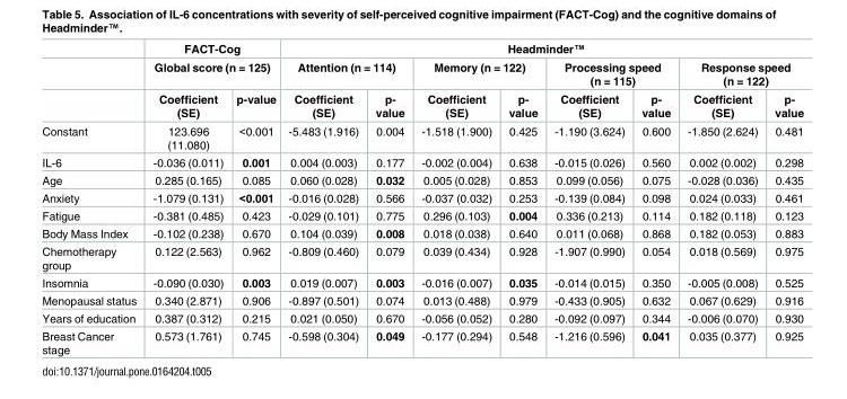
<table><thead><tr><td rowspan="3"></td><td rowspan="2" colspan="2">FACT-Cog Global score (n = 125)</td><td colspan="8">Headminder™</td></tr><tr><td colspan="2">Attention (n = 114)</td><td colspan="2">Memory (n = 122)</td><td colspan="2">Processing speed (n = 115)</td><td colspan="2">Response speed (n = 122)</td></tr><tr><td>Coefficient (SE)</td><td>p-value</td><td>Coefficient (SE)</td><td>p- value</td><td>Coefficient (SE)</td><td>p- value</td><td>Coefficient (SE)</td><td>p- value</td><td>Coefficient (SE)</td><td>p- value</td></tr></thead><tbody><tr><td>Constant</td><td>123.696 (11.080)</td><td>&lt;0.001</td><td>-5.483 (1.916)</td><td>0.004</td><td>-1.518 (1.900)</td><td>0.425</td><td>-1.190 (3.624)</td><td>0.600</td><td>-1.850 (2.624)</td><td>0.481</td></tr><tr><td>IL-6</td><td>-0.036 (0.011)</td><td>0.001</td><td>0.004 (0.003)</td><td>0.177</td><td>-0.002 (0.004)</td><td>0.638</td><td>-0.015 (0.026)</td><td>0.560</td><td>0.002 (0.002)</td><td>0.298</td></tr><tr><td>Age</td><td>0.285 (0.165)</td><td>0.085</td><td>0.060 (0.028)</td><td>0.032</td><td>0.005 (0.028)</td><td>0.853</td><td>0.099 (0.056)</td><td>0.075</td><td>-0.028 (0.036)</td><td>0.435</td></tr><tr><td>Anxiety</td><td>-1.079 (0.131)</td><td>&lt;0.001</td><td>-0.016 (0.028)</td><td>0.566</td><td>-0.037 (0.032)</td><td>0.253</td><td>-0.139 (0.084)</td><td>0.098</td><td>0.024 (0.033)</td><td>0.461</td></tr><tr><td>Fatigue</td><td>-0.381 (0.485)</td><td>0.423</td><td>-0.029 (0.101)</td><td>0.775</td><td>0.296 (0.103)</td><td>0.004</td><td>0.336 (0.213)</td><td>0.114</td><td>0.182 (0.118)</td><td>0.123</td></tr><tr><td>Body Mass Index</td><td>-0.102 (0.238)</td><td>0.670</td><td>0.104 (0.039)</td><td>0.008</td><td>0.018 (0.038)</td><td>0.640</td><td>0.011 (0.068)</td><td>0.868</td><td>0.182 (0.053)</td><td>0.883</td></tr><tr><td>Chemotherapy group</td><td>0.122 (2.563)</td><td>0.962</td><td>-0.809 (0.460)</td><td>0.079</td><td>0.039 (0.434)</td><td>0.928</td><td>-1.907 (0.990)</td><td>0.054</td><td>0.018 (0.569)</td><td>0.975</td></tr><tr><td>Insomnia</td><td>-0.090 (0.030)</td><td>0.003</td><td>0.019 (0.007)</td><td>0.003</td><td>-0.016 (0.007)</td><td>0.035</td><td>-0.014 (0.015)</td><td>0.350</td><td>-0.005 (0.008)</td><td>0.525</td></tr><tr><td>Menopausal status</td><td>0.340 (2.871)</td><td>0.906</td><td>-0.897 (0.501)</td><td>0.074</td><td>0.013 (0.488)</td><td>0.979</td><td>-0.433 (0.905)</td><td>0.632</td><td>0.067 (0.629)</td><td>0.916</td></tr><tr><td>Years of education</td><td>0.387 (0.312)</td><td>0.215</td><td>0.021 (0.050)</td><td>0.670</td><td>-0.056 (0.052)</td><td>0.280</td><td>-0.092 (0.097)</td><td>0.344</td><td>-0.006 (0.070)</td><td>0.930</td></tr><tr><td>Breast Cancer stage</td><td>0.573 (1.761)</td><td>0.745</td><td>-0.598 (0.304)</td><td>0.049</td><td>-0.177 (0.294)</td><td>0.548</td><td>-1.216 (0.596)</td><td>0.041</td><td>0.035 (0.377)</td><td>0.925</td></tr></tbody></table>